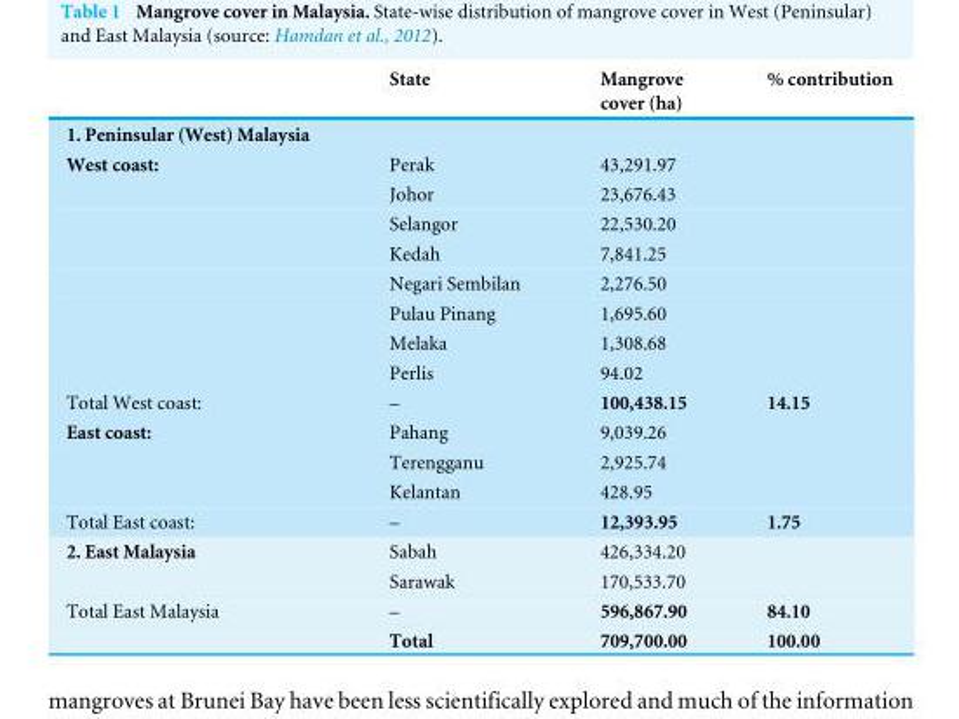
<table><thead><tr><td></td><td>State</td><td>Mangrove cover (ha)</td><td>% contribution</td></tr></thead><tbody><tr><td colspan="4">1. Peninsular (West) Malaysia</td></tr><tr><td rowspan="8">West coast:</td><td>Perak</td><td>43,291.97</td><td></td></tr><tr><td>Johor</td><td>23,676.43</td><td></td></tr><tr><td>Selangor</td><td>22,530.20</td><td></td></tr><tr><td>Kedah</td><td>7,841.25</td><td></td></tr><tr><td>Negari Sembilan</td><td>2,276.50</td><td></td></tr><tr><td>Pulau Pinang</td><td>1,695.60</td><td></td></tr><tr><td>Melaka</td><td>1,308.68</td><td></td></tr><tr><td>Perlis</td><td>94.02</td><td></td></tr><tr><td>Total West coast:</td><td>–</td><td>100,438.15</td><td>14.15</td></tr><tr><td rowspan="3">East coast:</td><td>Pahang</td><td>9,039.26</td><td></td></tr><tr><td>Terengganu</td><td>2,925.74</td><td></td></tr><tr><td>Kelantan</td><td>428.95</td><td></td></tr><tr><td>Total East coast:</td><td>–</td><td>12,393.95</td><td>1.75</td></tr><tr><td rowspan="2">2. East Malaysia</td><td>Sabah</td><td>426,334.20</td><td></td></tr><tr><td>Sarawak</td><td>170,533.70</td><td></td></tr><tr><td rowspan="2">Total East Malaysia</td><td>–</td><td>596,867.90</td><td>84.10</td></tr><tr><td>Total</td><td>709,700.00</td><td>100.00</td></tr></tbody></table>